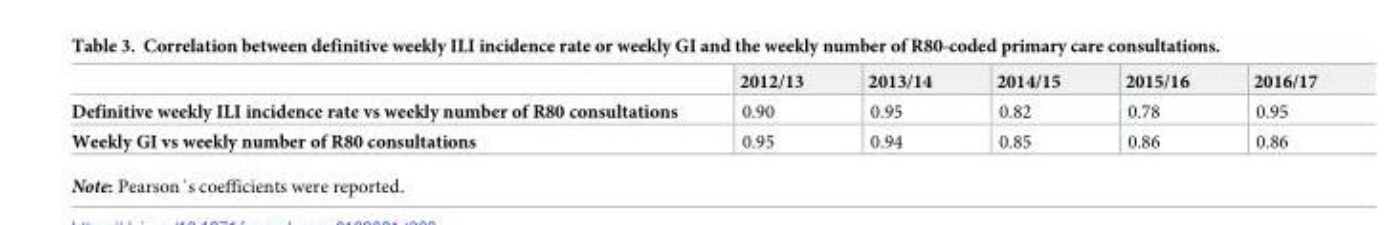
<table><thead><tr><td></td><td>2012/13</td><td>2013/14</td><td>2014/15</td><td>2015/16</td><td>2016/17</td></tr></thead><tbody><tr><td>Definitive weekly ILI incidence rate vs weekly number of R80 consultations</td><td>0.90</td><td>0.95</td><td>0.82</td><td>0.78</td><td>0.95</td></tr><tr><td>Weekly GI vs weekly number of R80 consultations</td><td>0.95</td><td>0.94</td><td>0.85</td><td>0.86</td><td>0.86</td></tr></tbody></table>